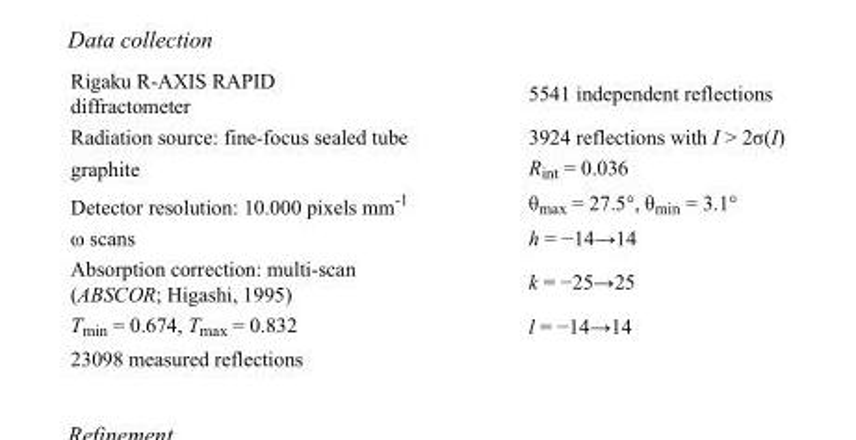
<table><tbody><tr><td>Rigaku R-AXIS RAPID diffractometer</td><td>5541 independent reflections</td></tr><tr><td>Radiation source: fine-focus sealed tube</td><td>3924 reflections with I &gt; 2σ(I)</td></tr><tr><td>graphite</td><td>R<sub>int</sub> = 0.036</td></tr><tr><td>Detector resolution: 10.000 pixels mm<sup>-1</sup></td><td>θ<sub>max</sub> = 27.5°, θ<sub>min</sub> = 3.1°</td></tr><tr><td>ω scans</td><td>h = −14→14</td></tr><tr><td>Absorption correction: multi-scan (ABSCOR; Higashi, 1995)</td><td>k = −25→25</td></tr><tr><td>T<sub>min</sub> = 0.674, T<sub>max</sub> = 0.832</td><td>l = −14→14</td></tr><tr><td>23098 measured reflections</td><td></td></tr></tbody></table>